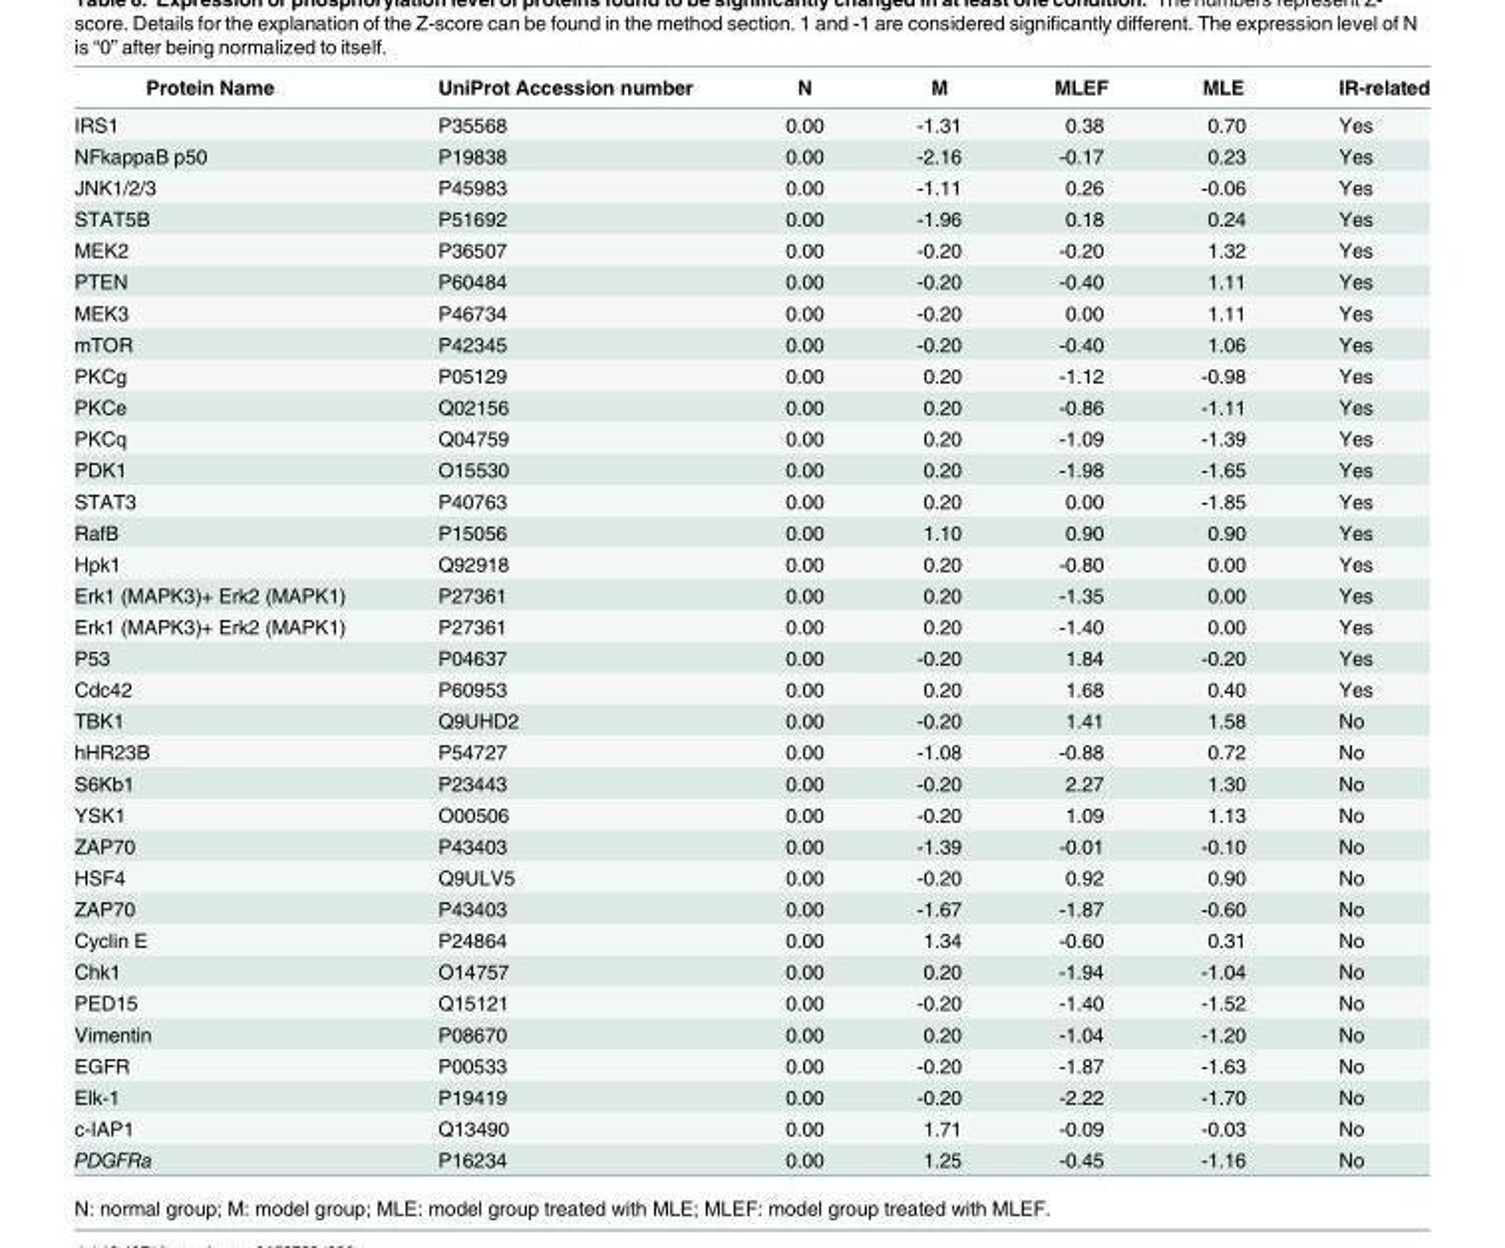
<table><thead><tr><td>Protein Name</td><td>UniProt Accession number</td><td>N</td><td>M</td><td>MLEF</td><td>MLE</td><td>IR-related</td></tr></thead><tbody><tr><td>IRS1</td><td>P35568</td><td>0.00</td><td>-1.31</td><td>0.38</td><td>0.70</td><td>Yes</td></tr><tr><td>NFkappaB p50</td><td>P19838</td><td>0.00</td><td>-2.16</td><td>-0.17</td><td>0.23</td><td>Yes</td></tr><tr><td>JNK1/2/3</td><td>P45983</td><td>0.00</td><td>-1.11</td><td>0.26</td><td>-0.06</td><td>Yes</td></tr><tr><td>STAT5B</td><td>P51692</td><td>0.00</td><td>-1.96</td><td>0.18</td><td>0.24</td><td>Yes</td></tr><tr><td>MEK2</td><td>P36507</td><td>0.00</td><td>-0.20</td><td>-0.20</td><td>1.32</td><td>Yes</td></tr><tr><td>PTEN</td><td>P60484</td><td>0.00</td><td>-0.20</td><td>-0.40</td><td>1.11</td><td>Yes</td></tr><tr><td>MEK3</td><td>P46734</td><td>0.00</td><td>-0.20</td><td>0.00</td><td>1.11</td><td>Yes</td></tr><tr><td>mTOR</td><td>P42345</td><td>0.00</td><td>-0.20</td><td>-0.40</td><td>1.06</td><td>Yes</td></tr><tr><td>PKCg</td><td>P05129</td><td>0.00</td><td>0.20</td><td>-1.12</td><td>-0.98</td><td>Yes</td></tr><tr><td>PKCe</td><td>Q02156</td><td>0.00</td><td>0.20</td><td>-0.86</td><td>-1.11</td><td>Yes</td></tr><tr><td>PKCq</td><td>Q04759</td><td>0.00</td><td>0.20</td><td>-1.09</td><td>-1.39</td><td>Yes</td></tr><tr><td>PDK1</td><td>O15530</td><td>0.00</td><td>0.20</td><td>-1.98</td><td>-1.65</td><td>Yes</td></tr><tr><td>STAT3</td><td>P40763</td><td>0.00</td><td>0.20</td><td>0.00</td><td>-1.85</td><td>Yes</td></tr><tr><td>RafB</td><td>P15056</td><td>0.00</td><td>1.10</td><td>0.90</td><td>0.90</td><td>Yes</td></tr><tr><td>Hpk1</td><td>Q92918</td><td>0.00</td><td>0.20</td><td>-0.80</td><td>0.00</td><td>Yes</td></tr><tr><td>Erk1 (MAPK3)+ Erk2 (MAPK1)</td><td>P27361</td><td>0.00</td><td>0.20</td><td>-1.35</td><td>0.00</td><td>Yes</td></tr><tr><td>Erk1 (MAPK3)+ Erk2 (MAPK1)</td><td>P27361</td><td>0.00</td><td>0.20</td><td>-1.40</td><td>0.00</td><td>Yes</td></tr><tr><td>P53</td><td>P04637</td><td>0.00</td><td>-0.20</td><td>1.84</td><td>-0.20</td><td>Yes</td></tr><tr><td>Cdc42</td><td>P60953</td><td>0.00</td><td>0.20</td><td>1.68</td><td>0.40</td><td>Yes</td></tr><tr><td>TBK1</td><td>Q9UHD2</td><td>0.00</td><td>-0.20</td><td>1.41</td><td>1.58</td><td>No</td></tr><tr><td>hHR23B</td><td>P54727</td><td>0.00</td><td>-1.08</td><td>-0.88</td><td>0.72</td><td>No</td></tr><tr><td>S6Kb1</td><td>P23443</td><td>0.00</td><td>-0.20</td><td>2.27</td><td>1.30</td><td>No</td></tr><tr><td>YSK1</td><td>O00506</td><td>0.00</td><td>-0.20</td><td>1.09</td><td>1.13</td><td>No</td></tr><tr><td>ZAP70</td><td>P43403</td><td>0.00</td><td>-1.39</td><td>-0.01</td><td>-0.10</td><td>No</td></tr><tr><td>HSF4</td><td>Q9ULV5</td><td>0.00</td><td>-0.20</td><td>0.92</td><td>0.90</td><td>No</td></tr><tr><td>ZAP70</td><td>P43403</td><td>0.00</td><td>-1.67</td><td>-1.87</td><td>-0.60</td><td>No</td></tr><tr><td>Cyclin E</td><td>P24864</td><td>0.00</td><td>1.34</td><td>-0.60</td><td>0.31</td><td>No</td></tr><tr><td>Chk1</td><td>O14757</td><td>0.00</td><td>0.20</td><td>-1.94</td><td>-1.04</td><td>No</td></tr><tr><td>PED15</td><td>Q15121</td><td>0.00</td><td>-0.20</td><td>-1.40</td><td>-1.52</td><td>No</td></tr><tr><td>Vimentin</td><td>P08670</td><td>0.00</td><td>0.20</td><td>-1.04</td><td>-1.20</td><td>No</td></tr><tr><td>EGFR</td><td>P00533</td><td>0.00</td><td>-0.20</td><td>-1.87</td><td>-1.63</td><td>No</td></tr><tr><td>Elk-1</td><td>P19419</td><td>0.00</td><td>-0.20</td><td>-2.22</td><td>-1.70</td><td>No</td></tr><tr><td>c-IAP1</td><td>Q13490</td><td>0.00</td><td>1.71</td><td>-0.09</td><td>-0.03</td><td>No</td></tr><tr><td>PDGFRa</td><td>P16234</td><td>0.00</td><td>1.25</td><td>-0.45</td><td>-1.16</td><td>No</td></tr></tbody></table>